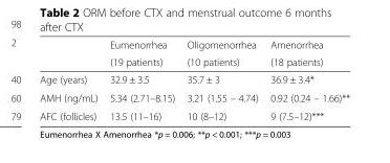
<table><thead><tr><td rowspan="2"></td><td rowspan="2">Eumenorrhea (19 patients)</td><td rowspan="2">Oligomenorrhea (10 patients)</td><td rowspan="2">Amenorrhea (18 patients)</td></tr><tr></tr></thead><tbody><tr><td>Age (years)</td><td>32.9 ± 3.5</td><td>35.7 ± 3</td><td>36.9 ± 3.4*</td></tr><tr><td>AMH (ng/mL)</td><td>5.34 (2.71–8.15)</td><td>3.21 (1.55 – 4.74)</td><td>0.92 (0.24 – 1.66)**</td></tr><tr><td>AFC (follicles)</td><td>13.5 (11–16)</td><td>10 (8–12)</td><td>9 (7.5–12)***</td></tr></tbody></table>